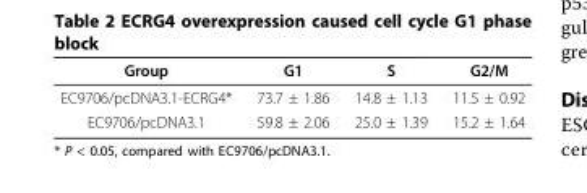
<table><thead><tr><td>Group</td><td>G1</td><td>S</td><td>G2/M</td></tr></thead><tbody><tr><td>EC9706/pcDNA3.1-ECRG4*</td><td>73.7 ± 1.86</td><td>14.8 ± 1.13</td><td>11.5 ± 0.92</td></tr><tr><td>EC9706/pcDNA3.1</td><td>59.8 ± 2.06</td><td>25.0 ± 1.39</td><td>15.2 ± 1.64</td></tr></tbody></table>